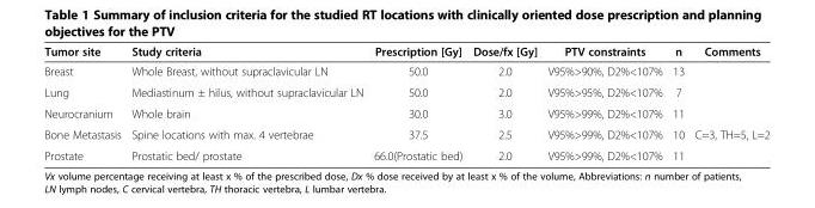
<table><thead><tr><td>Tumor site</td><td>Study criteria</td><td>Prescription [Gy]</td><td>Dose/fx [Gy]</td><td>PTV constraints</td><td>n</td><td>Comments</td></tr></thead><tbody><tr><td>Breast</td><td>Whole Breast, without supraclavicular LN</td><td>50.0</td><td>2.0</td><td>V95%&gt;90%, D2%&lt;107%</td><td>13</td><td></td></tr><tr><td>Lung</td><td>Mediastinum ± hilus, without supraclavicular LN</td><td>50.0</td><td>2.0</td><td>V95%&gt;95%, D2%&lt;107%</td><td>7</td><td></td></tr><tr><td>Neurocranium</td><td>Whole brain</td><td>30.0</td><td>3.0</td><td>V95%&gt;99%, D2%&lt;107%</td><td>11</td><td></td></tr><tr><td>Bone Metastasis</td><td>Spine locations with max. 4 vertebrae</td><td>37.5</td><td>2.5</td><td>V95%&gt;99%, D2%&lt;107%</td><td>10</td><td>C=3, TH=5, L=2</td></tr><tr><td>Prostate</td><td>Prostatic bed/ prostate</td><td>66.0(Prostatic bed)</td><td>2.0</td><td>V95%&gt;99%, D2%&lt;107%</td><td>11</td><td></td></tr></tbody></table>